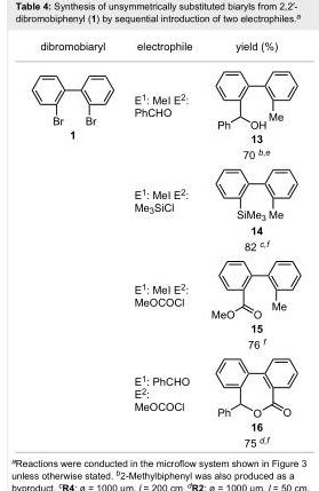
<table><tbody><tr><td>dibromobiaryl</td><td>electrophile</td><td>yield (%)</td></tr><tr><td rowspan="8">1</td><td>E<sup>1</sup>: MeI E<sup>2</sup>: PhCHO</td><td>13</td></tr><tr><td></td><td>70 <sup>b,e</sup></td></tr><tr><td>E<sup>1</sup>: MeI E<sup>2</sup>: Me<sub>3</sub>SiCl</td><td>14</td></tr><tr><td></td><td>82 <sup>c,f</sup></td></tr><tr><td>E<sup>1</sup>: MeI E<sup>2</sup>: MeOCOCl</td><td>15</td></tr><tr><td></td><td>76 <sup>f</sup></td></tr><tr><td>E<sup>1</sup>: PhCHO E<sup>2</sup>: MeOCOCl</td><td>16</td></tr><tr><td></td><td>75 <sup>d,f</sup></td></tr></tbody></table>